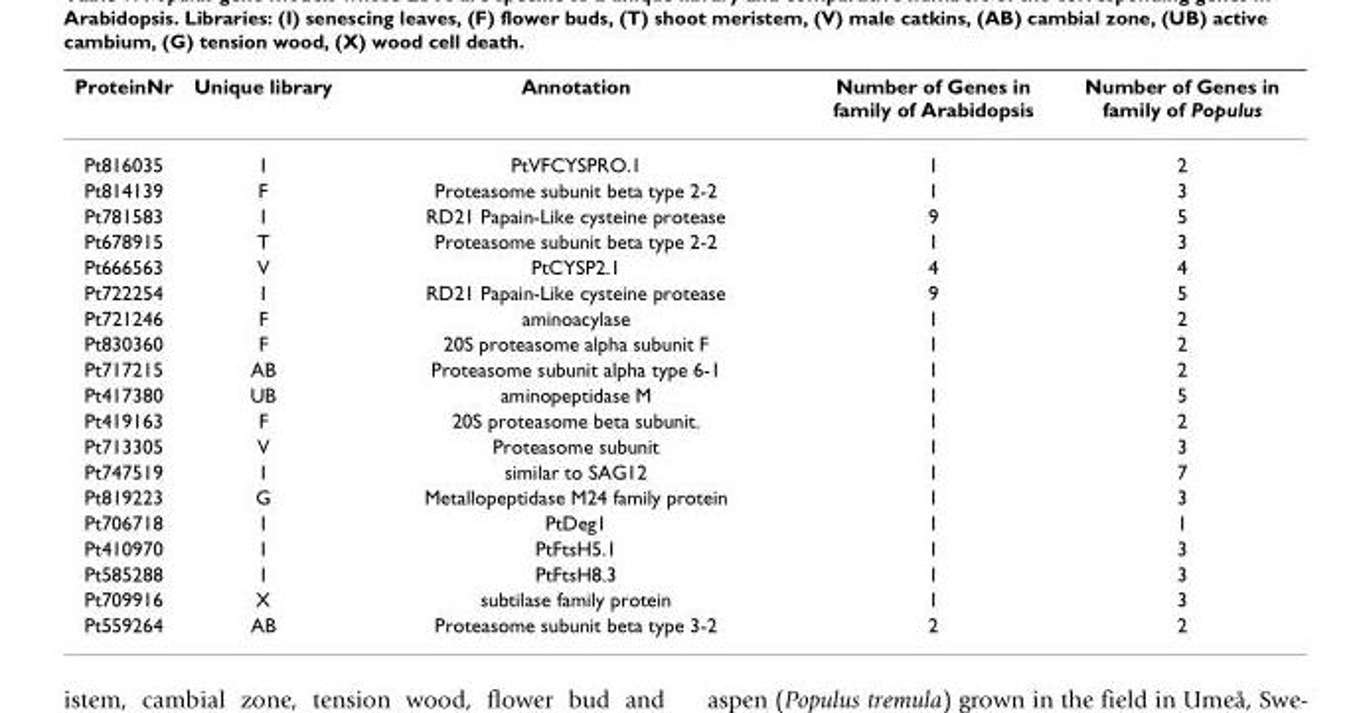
<table><thead><tr><td>ProteinNr</td><td>Unique library</td><td>Annotation</td><td>Number of Genes in family of Arabidopsis</td><td>Number of Genes in family of Populus</td></tr></thead><tbody><tr><td>Pt816035</td><td>I</td><td>PtVFCYSPRO.1</td><td>1</td><td>2</td></tr><tr><td>Pt814139</td><td>F</td><td>Proteasome subunit beta type 2-2</td><td>1</td><td>3</td></tr><tr><td>Pt781583</td><td>I</td><td>RD21 Papain-Like cysteine protease</td><td>9</td><td>5</td></tr><tr><td>Pt678915</td><td>T</td><td>Proteasome subunit beta type 2-2</td><td>1</td><td>3</td></tr><tr><td>Pt666563</td><td>V</td><td>PtCYSP2.1</td><td>4</td><td>4</td></tr><tr><td>Pt722254</td><td>I</td><td>RD21 Papain-Like cysteine protease</td><td>9</td><td>5</td></tr><tr><td>Pt721246</td><td>F</td><td>aminoacylase</td><td>1</td><td>2</td></tr><tr><td>Pt830360</td><td>F</td><td>20S proteasome alpha subunit F</td><td>1</td><td>2</td></tr><tr><td>Pt717215</td><td>AB</td><td>Proteasome subunit alpha type 6-1</td><td>1</td><td>2</td></tr><tr><td>Pt417380</td><td>UB</td><td>aminopeptidase M</td><td>1</td><td>5</td></tr><tr><td>Pt419163</td><td>F</td><td>20S proteasome beta subunit.</td><td>1</td><td>2</td></tr><tr><td>Pt713305</td><td>V</td><td>Proteasome subunit</td><td>1</td><td>3</td></tr><tr><td>Pt747519</td><td>I</td><td>similar to SAG12</td><td>1</td><td>7</td></tr><tr><td>Pt819223</td><td>G</td><td>Metallopeptidase M24 family protein</td><td>1</td><td>3</td></tr><tr><td>Pt706718</td><td>I</td><td>PtDeg1</td><td>1</td><td>1</td></tr><tr><td>Pt410970</td><td>I</td><td>PtFtsH5.1</td><td>1</td><td>3</td></tr><tr><td>Pt585288</td><td>I</td><td>PtFtsH8.3</td><td>1</td><td>3</td></tr><tr><td>Pt709916</td><td>X</td><td>subtilase family protein</td><td>1</td><td>3</td></tr><tr><td>Pt559264</td><td>AB</td><td>Proteasome subunit beta type 3-2</td><td>2</td><td>2</td></tr></tbody></table>